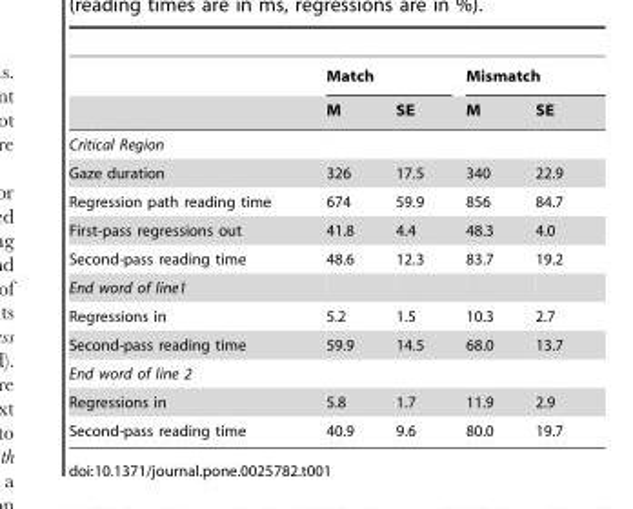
<table><thead><tr><td rowspan="2"></td><td colspan="2">Match</td><td colspan="2">Mismatch</td></tr><tr><td>M</td><td>SE</td><td>M</td><td>SE</td></tr></thead><tbody><tr><td colspan="5">Critical Region</td></tr><tr><td>Gaze duration</td><td>326</td><td>17.5</td><td>340</td><td>22.9</td></tr><tr><td>Regression path reading time</td><td>674</td><td>59.9</td><td>856</td><td>84.7</td></tr><tr><td>First-pass regressions out</td><td>41.8</td><td>4.4</td><td>48.3</td><td>4.0</td></tr><tr><td>Second-pass reading time</td><td>48.6</td><td>12.3</td><td>83.7</td><td>19.2</td></tr><tr><td colspan="5">End word of line1</td></tr><tr><td>Regressions in</td><td>5.2</td><td>1.5</td><td>10.3</td><td>2.7</td></tr><tr><td>Second-pass reading time</td><td>59.9</td><td>14.5</td><td>68.0</td><td>13.7</td></tr><tr><td colspan="5">End word of line 2</td></tr><tr><td>Regressions in</td><td>5.8</td><td>1.7</td><td>11.9</td><td>2.9</td></tr><tr><td>Second-pass reading time</td><td>40.9</td><td>9.6</td><td>80.0</td><td>19.7</td></tr></tbody></table>